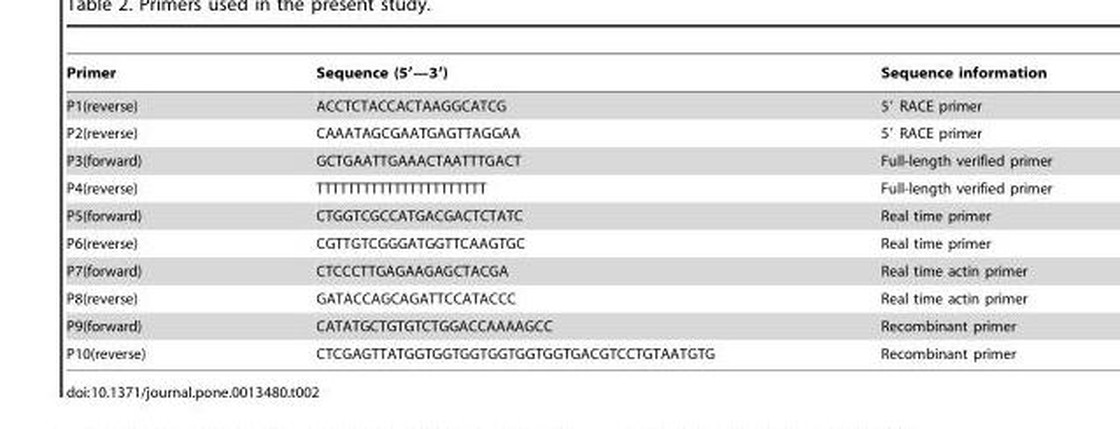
<table><thead><tr><td>Primer</td><td>Sequence (5′—3′)</td><td>Sequence information</td></tr></thead><tbody><tr><td>P1(reverse)</td><td>ACCTCTACCACTAAGGCATCG</td><td>5′ RACE primer</td></tr><tr><td>P2(reverse)</td><td>CAAATAGCGAATGAGTTAGGAA</td><td>5′ RACE primer</td></tr><tr><td>P3(forward)</td><td>GCTGAATTGAAACTAATTTGACT</td><td>Full-length verified primer</td></tr><tr><td>P4(reverse)</td><td>TTTTTTTTTTTTTTTTTTTTTT</td><td>Full-length verified primer</td></tr><tr><td>P5(forward)</td><td>CTGGTCGCCATGACGACTCTATC</td><td>Real time primer</td></tr><tr><td>P6(reverse)</td><td>CGTTGTCGGGATGGTTCAAGTGC</td><td>Real time primer</td></tr><tr><td>P7(forward)</td><td>CTCCCTTGAGAAGAGCTACGA</td><td>Real time actin primer</td></tr><tr><td>P8(reverse)</td><td>GATACCAGCAGATTCCATACCC</td><td>Real time actin primer</td></tr><tr><td>P9(forward)</td><td>CATATGCTGTGTCTGGACCAAAAGCC</td><td>Recombinant primer</td></tr><tr><td>P10(reverse)</td><td>CTCGAGTTATGGTGGTGGTGGTGGTGGTGACGTCCTGTAATGTG</td><td>Recombinant primer</td></tr></tbody></table>